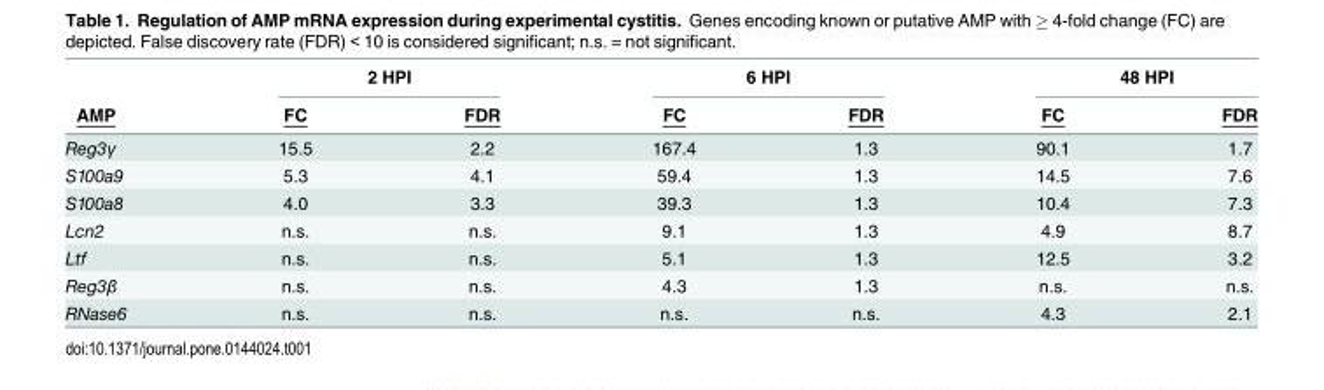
<table><thead><tr><td rowspan="2">AMP</td><td colspan="2">2 HPI</td><td colspan="2">6 HPI</td><td colspan="2">48 HPI</td></tr><tr><td>FC</td><td>FDR</td><td>FC</td><td>FDR</td><td>FC</td><td>FDR</td></tr></thead><tbody><tr><td>Reg3γ</td><td>15.5</td><td>2.2</td><td>167.4</td><td>1.3</td><td>90.1</td><td>1.7</td></tr><tr><td>S100a9</td><td>5.3</td><td>4.1</td><td>59.4</td><td>1.3</td><td>14.5</td><td>7.6</td></tr><tr><td>S100a8</td><td>4.0</td><td>3.3</td><td>39.3</td><td>1.3</td><td>10.4</td><td>7.3</td></tr><tr><td>Lcn2</td><td>n.s.</td><td>n.s.</td><td>9.1</td><td>1.3</td><td>4.9</td><td>8.7</td></tr><tr><td>Ltf</td><td>n.s.</td><td>n.s.</td><td>5.1</td><td>1.3</td><td>12.5</td><td>3.2</td></tr><tr><td>Reg3β</td><td>n.s.</td><td>n.s.</td><td>4.3</td><td>1.3</td><td>n.s.</td><td>n.s.</td></tr><tr><td>RNase6</td><td>n.s.</td><td>n.s.</td><td>n.s.</td><td>n.s.</td><td>4.3</td><td>2.1</td></tr></tbody></table>